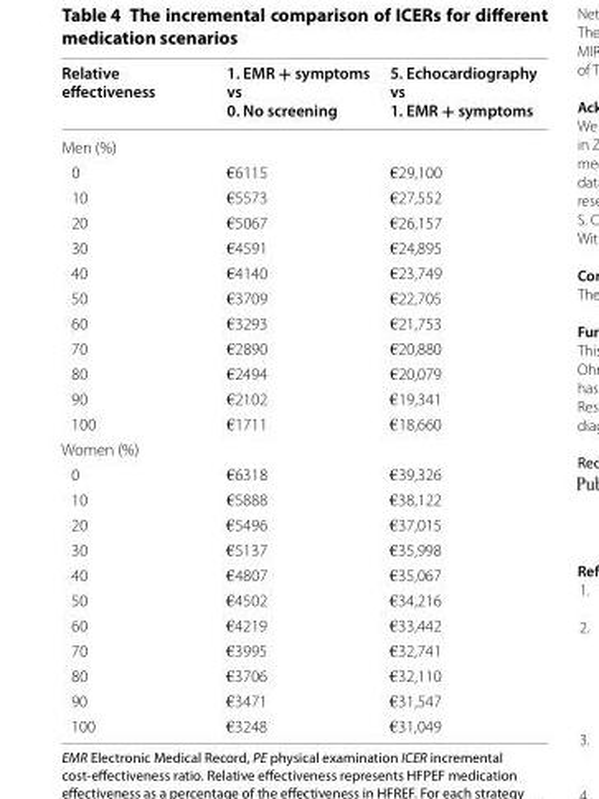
<table><thead><tr><td>Relative effectiveness</td><td>1. EMR + symptoms vs 0. No screening</td><td>5. Echocardiography vs 1. EMR + symptoms</td></tr></thead><tbody><tr><td colspan="3">Men (%)</td></tr><tr><td>0</td><td>€6115</td><td>€29,100</td></tr><tr><td>10</td><td>€5573</td><td>€27,552</td></tr><tr><td>20</td><td>€5067</td><td>€26,157</td></tr><tr><td>30</td><td>€4591</td><td>€24,895</td></tr><tr><td>40</td><td>€4140</td><td>€23,749</td></tr><tr><td>50</td><td>€3709</td><td>€22,705</td></tr><tr><td>60</td><td>€3293</td><td>€21,753</td></tr><tr><td>70</td><td>€2890</td><td>€20,880</td></tr><tr><td>80</td><td>€2494</td><td>€20,079</td></tr><tr><td>90</td><td>€2102</td><td>€19,341</td></tr><tr><td>100</td><td>€1711</td><td>€18,660</td></tr><tr><td colspan="3">Women (%)</td></tr><tr><td>0</td><td>€6318</td><td>€39,326</td></tr><tr><td>10</td><td>€5888</td><td>€38,122</td></tr><tr><td>20</td><td>€5496</td><td>€37,015</td></tr><tr><td>30</td><td>€5137</td><td>€35,998</td></tr><tr><td>40</td><td>€4807</td><td>€35,067</td></tr><tr><td>50</td><td>€4502</td><td>€34,216</td></tr><tr><td>60</td><td>€4219</td><td>€33,442</td></tr><tr><td>70</td><td>€3995</td><td>€32,741</td></tr><tr><td>80</td><td>€3706</td><td>€32,110</td></tr><tr><td>90</td><td>€3471</td><td>€31,547</td></tr><tr><td>100</td><td>€3248</td><td>€31,049</td></tr></tbody></table>